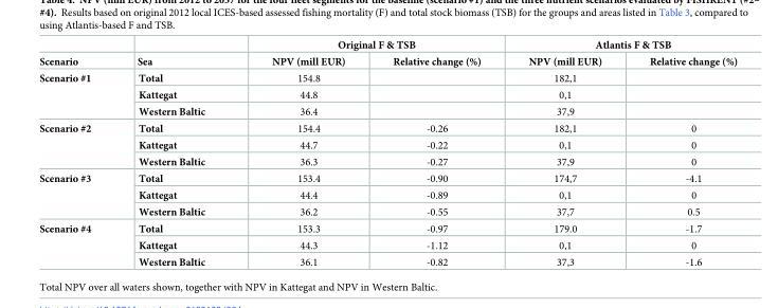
<table><thead><tr><td rowspan="2">Scenario</td><td rowspan="2">Sea</td><td colspan="2">Original F &amp; TSB</td><td colspan="2">Atlantis F &amp; TSB</td></tr><tr><td>NPV (mill EUR)</td><td>Relative change (%)</td><td>NPV (mill EUR)</td><td>Relative change (%)</td></tr></thead><tbody><tr><td rowspan="3">Scenario #1</td><td>Total</td><td>154.8</td><td></td><td>182,1</td><td></td></tr><tr><td>Kattegat</td><td>44.8</td><td></td><td>0,1</td><td></td></tr><tr><td>Western Baltic</td><td>36.4</td><td></td><td>37,9</td><td></td></tr><tr><td rowspan="3">Scenario #2</td><td>Total</td><td>154.4</td><td>-0.26</td><td>182,1</td><td>0</td></tr><tr><td>Kattegat</td><td>44.7</td><td>-0.22</td><td>0,1</td><td>0</td></tr><tr><td>Western Baltic</td><td>36.3</td><td>-0.27</td><td>37,9</td><td>0</td></tr><tr><td rowspan="3">Scenario #3</td><td>Total</td><td>153.4</td><td>-0.90</td><td>174,7</td><td>-4.1</td></tr><tr><td>Kattegat</td><td>44.4</td><td>-0.89</td><td>0,1</td><td>0</td></tr><tr><td>Western Baltic</td><td>36.2</td><td>-0.55</td><td>37,7</td><td>0.5</td></tr><tr><td rowspan="3">Scenario #4</td><td>Total</td><td>153.3</td><td>-0.97</td><td>179.0</td><td>-1.7</td></tr><tr><td>Kattegat</td><td>44.3</td><td>-1.12</td><td>0,1</td><td>0</td></tr><tr><td>Western Baltic</td><td>36.1</td><td>-0.82</td><td>37,3</td><td>-1.6</td></tr></tbody></table>